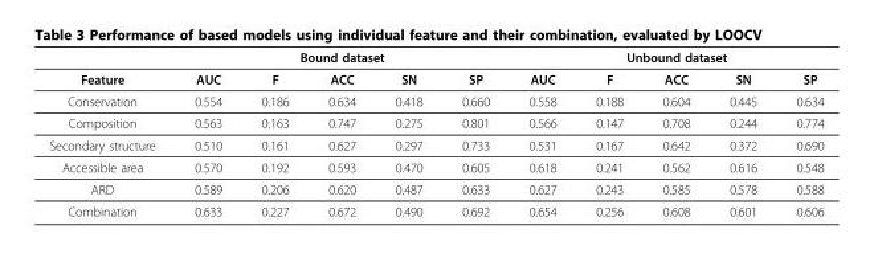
<table><thead><tr><td rowspan="2">Feature</td><td colspan="5">Bound dataset</td><td colspan="5">Unbound dataset</td></tr><tr><td>AUC</td><td>F</td><td>ACC</td><td>SN</td><td>SP</td><td>AUC</td><td>F</td><td>ACC</td><td>SN</td><td>SP</td></tr></thead><tbody><tr><td>Conservation</td><td>0.554</td><td>0.186</td><td>0.634</td><td>0.418</td><td>0.660</td><td>0.558</td><td>0.188</td><td>0.604</td><td>0.445</td><td>0.634</td></tr><tr><td>Composition</td><td>0.563</td><td>0.163</td><td>0.747</td><td>0.275</td><td>0.801</td><td>0.566</td><td>0.147</td><td>0.708</td><td>0.244</td><td>0.774</td></tr><tr><td>Secondary structure</td><td>0.510</td><td>0.161</td><td>0.627</td><td>0.297</td><td>0.733</td><td>0.531</td><td>0.167</td><td>0.642</td><td>0.372</td><td>0.690</td></tr><tr><td>Accessible area</td><td>0.570</td><td>0.192</td><td>0.593</td><td>0.470</td><td>0.605</td><td>0.618</td><td>0.241</td><td>0.562</td><td>0.616</td><td>0.548</td></tr><tr><td>ARD</td><td>0.589</td><td>0.206</td><td>0.620</td><td>0.487</td><td>0.633</td><td>0.627</td><td>0.243</td><td>0.585</td><td>0.578</td><td>0.588</td></tr><tr><td>Combination</td><td>0.633</td><td>0.227</td><td>0.672</td><td>0.490</td><td>0.692</td><td>0.654</td><td>0.256</td><td>0.608</td><td>0.601</td><td>0.606</td></tr></tbody></table>